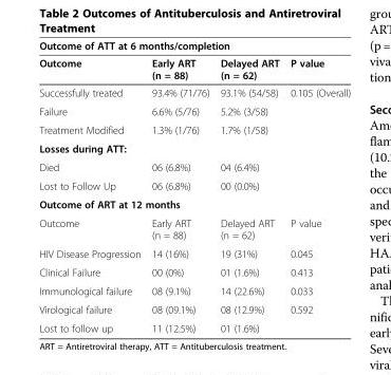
<table><thead><tr><td colspan="4">Outcome of ATT at 6 months/completion</td></tr><tr><td>Outcome</td><td>Early ART (n = 88)</td><td>Delayed ART (n = 62)</td><td>P value</td></tr></thead><tbody><tr><td>Successfully treated</td><td>93.4% (71/76)</td><td>93.1% (54/58)</td><td>0.105 (Overall)</td></tr><tr><td>Failure</td><td>6.6% (5/76)</td><td>5.2% (3/58)</td><td></td></tr><tr><td>Treatment Modified</td><td>1.3% (1/76)</td><td>1.7% (1/58)</td><td></td></tr><tr><td colspan="4">Losses during ATT:</td></tr><tr><td>Died</td><td>06 (6.8%)</td><td>04 (6.4%)</td><td></td></tr><tr><td>Lost to Follow Up</td><td>06 (6.8%)</td><td>00 (0.0%)</td><td></td></tr><tr><td colspan="4">Outcome of ART at 12 months</td></tr><tr><td>Outcome</td><td>Early ART (n = 88)</td><td>Delayed ART (n = 62)</td><td>P value</td></tr><tr><td>HIV Disease Progression</td><td>14 (16%)</td><td>19 (31%)</td><td>0.045</td></tr><tr><td>Clinical Failure</td><td>00 (0%)</td><td>01 (1.6%)</td><td>0.413</td></tr><tr><td>Immunological failure</td><td>08 (9.1%)</td><td>14 (22.6%)</td><td>0.033</td></tr><tr><td>Virological failure</td><td>08 (09.1%)</td><td>08 (12.9%)</td><td>0.592</td></tr><tr><td>Lost to follow up</td><td>11 (12.5%)</td><td>01 (1.6%)</td><td></td></tr></tbody></table>